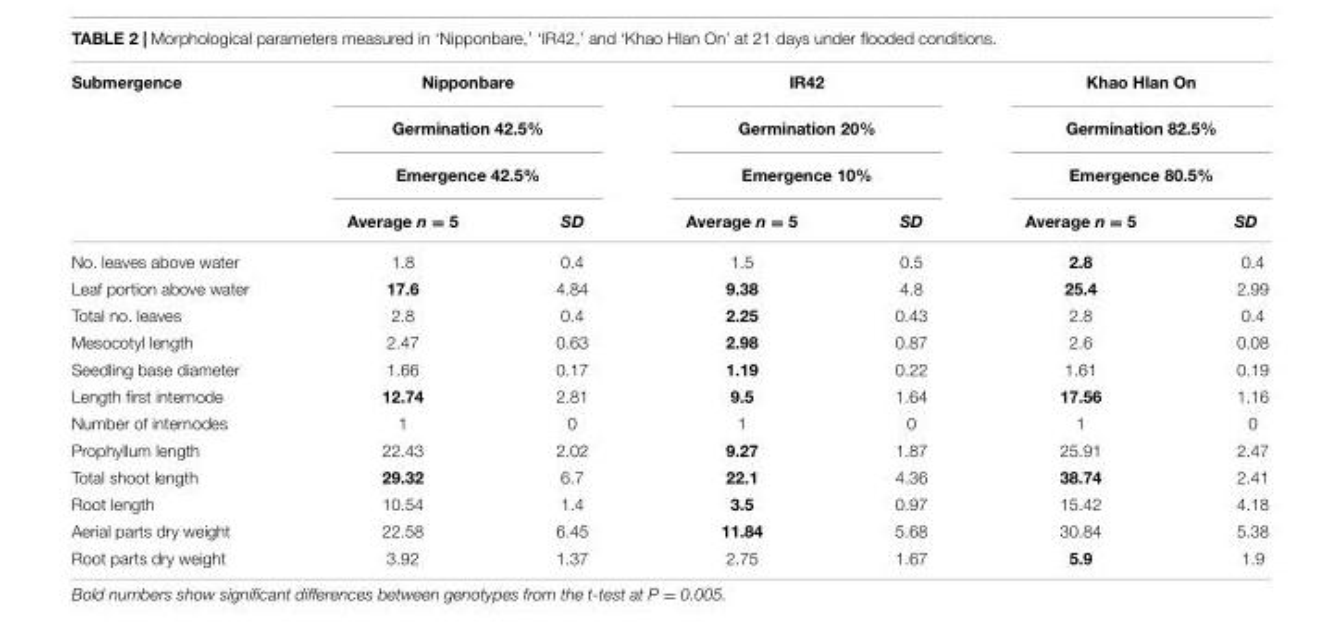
<table><thead><tr><td rowspan="4">Submergence</td><td rowspan="3" colspan="2">Nipponbare Germination 42.5% Emergence 42.5%</td><td rowspan="3" colspan="2">IR42 Germination 20% Emergence 10%</td><td rowspan="3" colspan="2">Khao Hlan On Germination 82.5% Emergence 80.5%</td></tr><tr></tr><tr></tr><tr><td>Average n = 5</td><td>SD</td><td>Average n = 5</td><td>SD</td><td>Average n = 5</td><td>SD</td></tr></thead><tbody><tr><td>No. leaves above water</td><td>1.8</td><td>0.4</td><td>1.5</td><td>0.5</td><td>2.8</td><td>0.4</td></tr><tr><td>Leaf portion above water</td><td>17.6</td><td>4.84</td><td>9.38</td><td>4.8</td><td>25.4</td><td>2.99</td></tr><tr><td>Total no. leaves</td><td>2.8</td><td>0.4</td><td>2.25</td><td>0.43</td><td>2.8</td><td>0.4</td></tr><tr><td>Mesocotyl length</td><td>2.47</td><td>0.63</td><td>2.98</td><td>0.87</td><td>2.6</td><td>0.08</td></tr><tr><td>Seedling base diameter</td><td>1.66</td><td>0.17</td><td>1.19</td><td>0.22</td><td>1.61</td><td>0.19</td></tr><tr><td>Length first internode</td><td>12.74</td><td>2.81</td><td>9.5</td><td>1.64</td><td>17.56</td><td>1.16</td></tr><tr><td>Number of internodes</td><td>1</td><td>0</td><td>1</td><td>0</td><td>1</td><td>0</td></tr><tr><td>Prophyllum length</td><td>22.43</td><td>2.02</td><td>9.27</td><td>1.87</td><td>25.91</td><td>2.47</td></tr><tr><td>Total shoot length</td><td>29.32</td><td>6.7</td><td>22.1</td><td>4.36</td><td>38.74</td><td>2.41</td></tr><tr><td>Root length</td><td>10.54</td><td>1.4</td><td>3.5</td><td>0.97</td><td>15.42</td><td>4.18</td></tr><tr><td>Aerial parts dry weight</td><td>22.58</td><td>6.45</td><td>11.84</td><td>5.68</td><td>30.84</td><td>5.38</td></tr><tr><td>Root parts dry weight</td><td>3.92</td><td>1.37</td><td>2.75</td><td>1.67</td><td>5.9</td><td>1.9</td></tr></tbody></table>